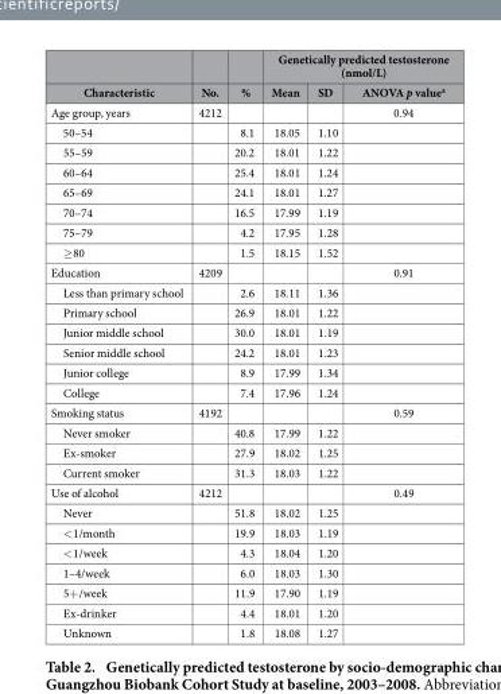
<table><thead><tr><td rowspan="2">Characteristic</td><td rowspan="2">No.</td><td rowspan="2">%</td><td colspan="3">Genetically predicted testosterone (nmol/L)</td></tr><tr><td>Mean</td><td>SD</td><td>ANOVA p value<sup>a</sup></td></tr></thead><tbody><tr><td>Age group, years</td><td>4212</td><td></td><td></td><td></td><td>0.94</td></tr><tr><td>50–54</td><td></td><td>8.1</td><td>18.05</td><td>1.10</td><td></td></tr><tr><td>55–59</td><td></td><td>20.2</td><td>18.01</td><td>1.22</td><td></td></tr><tr><td>60–64</td><td></td><td>25.4</td><td>18.01</td><td>1.24</td><td></td></tr><tr><td>65–69</td><td></td><td>24.1</td><td>18.01</td><td>1.27</td><td></td></tr><tr><td>70–74</td><td></td><td>16.5</td><td>17.99</td><td>1.19</td><td></td></tr><tr><td>75–79</td><td></td><td>4.2</td><td>17.95</td><td>1.28</td><td></td></tr><tr><td>≥ 80</td><td></td><td>1.5</td><td>18.15</td><td>1.52</td><td></td></tr><tr><td>Education</td><td>4209</td><td></td><td></td><td></td><td>0.91</td></tr><tr><td>Less than primary school</td><td></td><td>2.6</td><td>18.11</td><td>1.36</td><td></td></tr><tr><td>Primary school</td><td></td><td>26.9</td><td>18.01</td><td>1.22</td><td></td></tr><tr><td>Junior middle school</td><td></td><td>30.0</td><td>18.01</td><td>1.19</td><td></td></tr><tr><td>Senior middle school</td><td></td><td>24.2</td><td>18.01</td><td>1.23</td><td></td></tr><tr><td>Junior college</td><td></td><td>8.9</td><td>17.99</td><td>1.34</td><td></td></tr><tr><td>College</td><td></td><td>7.4</td><td>17.96</td><td>1.24</td><td></td></tr><tr><td>Smoking status</td><td>4192</td><td></td><td></td><td></td><td>0.59</td></tr><tr><td>Never smoker</td><td></td><td>40.8</td><td>17.99</td><td>1.22</td><td></td></tr><tr><td>Ex-smoker</td><td></td><td>27.9</td><td>18.02</td><td>1.25</td><td></td></tr><tr><td>Current smoker</td><td></td><td>31.3</td><td>18.03</td><td>1.22</td><td></td></tr><tr><td>Use of alcohol</td><td>4212</td><td></td><td></td><td></td><td>0.49</td></tr><tr><td>Never</td><td></td><td>51.8</td><td>18.02</td><td>1.25</td><td></td></tr><tr><td>&lt; 1/month</td><td></td><td>19.9</td><td>18.03</td><td>1.19</td><td></td></tr><tr><td>&lt; 1/week</td><td></td><td>4.3</td><td>18.04</td><td>1.20</td><td></td></tr><tr><td>1–4/week</td><td></td><td>6.0</td><td>18.03</td><td>1.30</td><td></td></tr><tr><td>5+ /week</td><td></td><td>11.9</td><td>17.90</td><td>1.19</td><td></td></tr><tr><td>Ex-drinker</td><td></td><td>4.4</td><td>18.01</td><td>1.20</td><td></td></tr><tr><td>Unknown</td><td></td><td>1.8</td><td>18.08</td><td>1.27</td><td></td></tr></tbody></table>